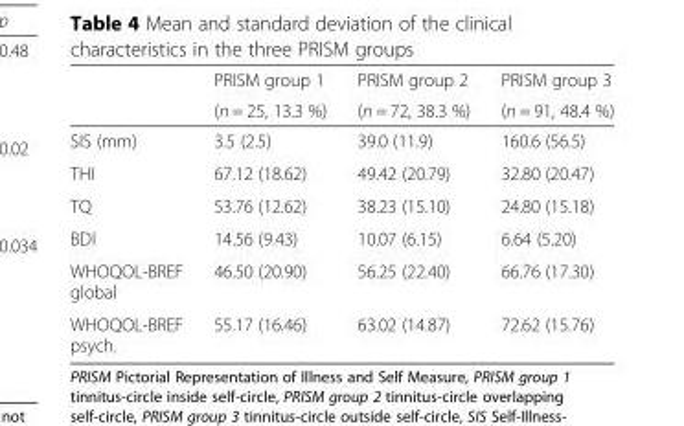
<table><thead><tr><td rowspan="2"></td><td rowspan="2">PRISM group 1 (n = 25, 13.3 %)</td><td rowspan="2">PRISM group 2 (n = 72, 38.3 %)</td><td rowspan="2">PRISM group 3 (n = 91, 48.4 %)</td></tr><tr></tr></thead><tbody><tr><td>SIS (mm)</td><td>3.5 (2.5)</td><td>39.0 (11.9)</td><td>160.6 (56.5)</td></tr><tr><td>THI</td><td>67.12 (18.62)</td><td>49.42 (20.79)</td><td>32.80 (20.47)</td></tr><tr><td>TQ</td><td>53.76 (12.62)</td><td>38.23 (15.10)</td><td>24.80 (15.18)</td></tr><tr><td>BDI</td><td>14.56 (9.43)</td><td>10.07 (6.15)</td><td>6.64 (5.20)</td></tr><tr><td>WHOQOL-BREF global</td><td>46.50 (20.90)</td><td>56.25 (22.40)</td><td>66.76 (17.30)</td></tr><tr><td>WHOQOL-BREF psych.</td><td>55.17 (16.46)</td><td>63.02 (14.87)</td><td>72.62 (15.76)</td></tr></tbody></table>